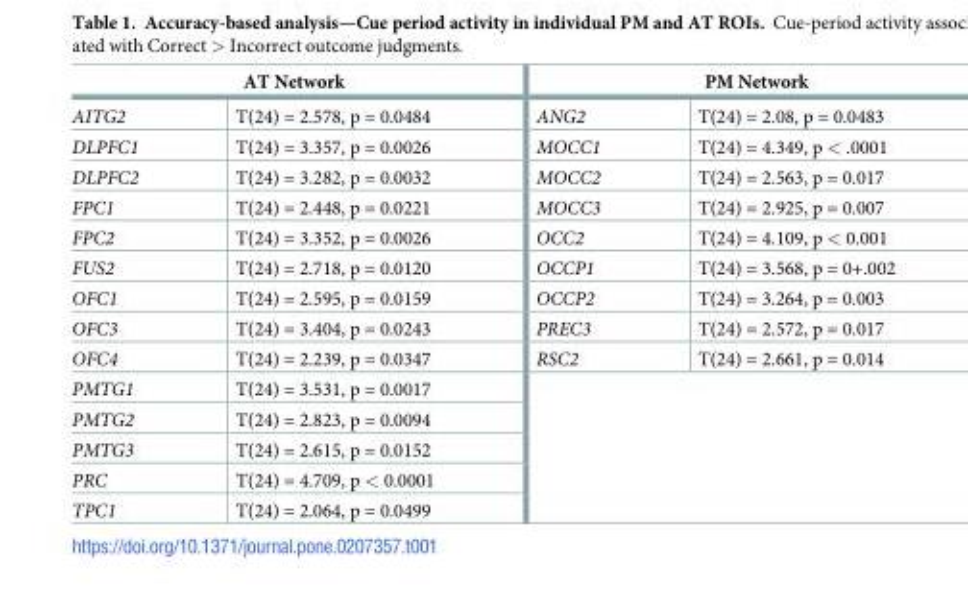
<table><thead><tr><td colspan="2">AT Network</td><td colspan="2">PM Network</td></tr><tr><td>AITG2</td><td>T(24) = 2.578, p = 0.0484</td><td>ANG2</td><td>T(24) = 2.08, p = 0.0483</td></tr></thead><tbody><tr><td>DLPFC1</td><td>T(24) = 3.357, p = 0.0026</td><td>MOCC1</td><td>T(24) = 4.349, p &lt; .0001</td></tr><tr><td>DLPFC2</td><td>T(24) = 3.282, p = 0.0032</td><td>MOCC2</td><td>T(24) = 2.563, p = 0.017</td></tr><tr><td>FPC1</td><td>T(24) = 2.448, p = 0.0221</td><td>MOCC3</td><td>T(24) = 2.925, p = 0.007</td></tr><tr><td>FPC2</td><td>T(24) = 3.352, p = 0.0026</td><td>OCC2</td><td>T(24) = 4.109, p &lt; 0.001</td></tr><tr><td>FUS2</td><td>T(24) = 2.718, p = 0.0120</td><td>OCCP1</td><td>T(24) = 3.568, p = 0+.002</td></tr><tr><td>OFC1</td><td>T(24) = 2.595, p = 0.0159</td><td>OCCP2</td><td>T(24) = 3.264, p = 0.003</td></tr><tr><td>OFC3</td><td>T(24) = 3.404, p = 0.0243</td><td>PREC3</td><td>T(24) = 2.572, p = 0.017</td></tr><tr><td>OFC4</td><td>T(24) = 2.239, p = 0.0347</td><td>RSC2</td><td>T(24) = 2.661, p = 0.014</td></tr><tr><td>PMTG1</td><td>T(24) = 3.531, p = 0.0017</td><td rowspan="5" colspan="2"></td></tr><tr><td>PMTG2</td><td>T(24) = 2.823, p = 0.0094</td></tr><tr><td>PMTG3</td><td>T(24) = 2.615, p = 0.0152</td></tr><tr><td>PRC</td><td>T(24) = 4.709, p &lt; 0.0001</td></tr><tr><td>TPC1</td><td>T(24) = 2.064, p = 0.0499</td></tr></tbody></table>